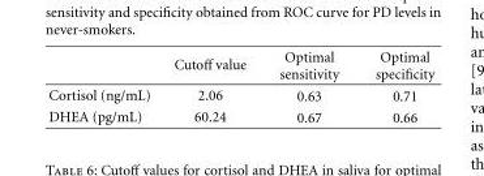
<table><thead><tr><td></td><td>Cutoff value</td><td>Optimal sensitivity</td><td>Optimal specificity</td></tr></thead><tbody><tr><td>Cortisol (ng/mL)</td><td>2.06</td><td>0.63</td><td>0.71</td></tr><tr><td>DHEA (pg/mL)</td><td>60.24</td><td>0.67</td><td>0.66</td></tr></tbody></table>